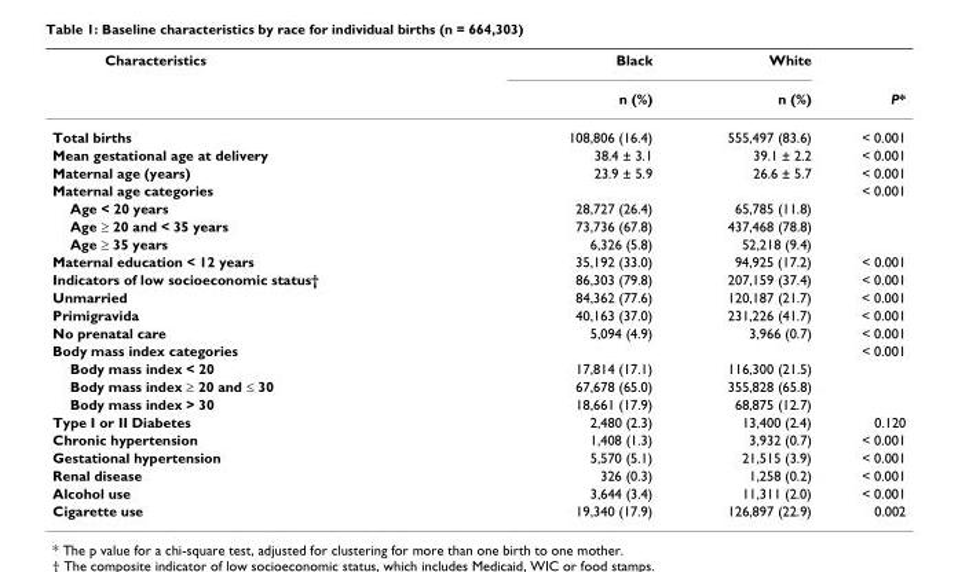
<table><thead><tr><td rowspan="2">Characteristics</td><td rowspan="2">Black n (%)</td><td rowspan="2">White n (%)</td><td rowspan="2">P*</td></tr><tr></tr></thead><tbody><tr><td>Total births</td><td>108,806 (16.4)</td><td>555,497 (83.6)</td><td>&lt; 0.001</td></tr><tr><td>Mean gestational age at delivery</td><td>38.4 ± 3.1</td><td>39.1 ± 2.2</td><td>&lt; 0.001</td></tr><tr><td>Maternal age (years)</td><td>23.9 ± 5.9</td><td>26.6 ± 5.7</td><td>&lt; 0.001</td></tr><tr><td>Maternal age categories</td><td></td><td></td><td>&lt; 0.001</td></tr><tr><td>Age &lt; 20 years</td><td>28,727 (26.4)</td><td>65,785 (11.8)</td><td></td></tr><tr><td>Age ≥ 20 and &lt; 35 years</td><td>73,736 (67.8)</td><td>437,468 (78.8)</td><td></td></tr><tr><td>Age ≥ 35 years</td><td>6,326 (5.8)</td><td>52,218 (9.4)</td><td></td></tr><tr><td>Maternal education &lt; 12 years</td><td>35,192 (33.0)</td><td>94,925 (17.2)</td><td>&lt; 0.001</td></tr><tr><td>Indicators of low socioeconomic status†</td><td>86,303 (79.8)</td><td>207,159 (37.4)</td><td>&lt; 0.001</td></tr><tr><td>Unmarried</td><td>84,362 (77.6)</td><td>120,187 (21.7)</td><td>&lt; 0.001</td></tr><tr><td>Primigravida</td><td>40,163 (37.0)</td><td>231,226 (41.7)</td><td>&lt; 0.001</td></tr><tr><td>No prenatal care</td><td>5,094 (4.9)</td><td>3,966 (0.7)</td><td>&lt; 0.001</td></tr><tr><td>Body mass index categories</td><td></td><td></td><td>&lt; 0.001</td></tr><tr><td>Body mass index &lt; 20</td><td>17,814 (17.1)</td><td>116,300 (21.5)</td><td></td></tr><tr><td>Body mass index ≥ 20 and ≤ 30</td><td>67,678 (65.0)</td><td>355,828 (65.8)</td><td></td></tr><tr><td>Body mass index &gt; 30</td><td>18,661 (17.9)</td><td>68,875 (12.7)</td><td></td></tr><tr><td>Type I or II Diabetes</td><td>2,480 (2.3)</td><td>13,400 (2.4)</td><td>0.120</td></tr><tr><td>Chronic hypertension</td><td>1,408 (1.3)</td><td>3,932 (0.7)</td><td>&lt; 0.001</td></tr><tr><td>Gestational hypertension</td><td>5,570 (5.1)</td><td>21,515 (3.9)</td><td>&lt; 0.001</td></tr><tr><td>Renal disease</td><td>326 (0.3)</td><td>1,258 (0.2)</td><td>&lt; 0.001</td></tr><tr><td>Alcohol use</td><td>3,644 (3.4)</td><td>11,311 (2.0)</td><td>&lt; 0.001</td></tr><tr><td>Cigarette use</td><td>19,340 (17.9)</td><td>126,897 (22.9)</td><td>0.002</td></tr></tbody></table>